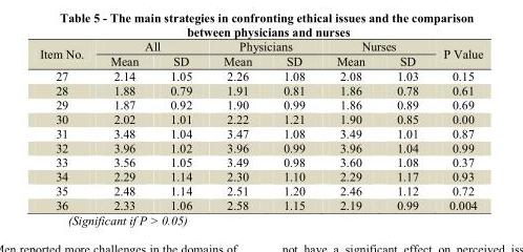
<table><thead><tr><td rowspan="2">Item No.</td><td colspan="2">All</td><td colspan="2">Physicians</td><td colspan="2">Nurses</td><td rowspan="2">P Value</td></tr><tr><td>Mean</td><td>SD</td><td>Mean</td><td>SD</td><td>Mean</td><td>SD</td></tr></thead><tbody><tr><td>27</td><td>2.14</td><td>1.05</td><td>2.26</td><td>1.08</td><td>2.08</td><td>1.03</td><td>0.15</td></tr><tr><td>28</td><td>1.88</td><td>0.79</td><td>1.91</td><td>0.81</td><td>1.86</td><td>0.78</td><td>0.61</td></tr><tr><td>29</td><td>1.87</td><td>0.92</td><td>1.90</td><td>0.99</td><td>1.86</td><td>0.89</td><td>0.69</td></tr><tr><td>30</td><td>2.02</td><td>1.01</td><td>2.22</td><td>1.21</td><td>1.90</td><td>0.85</td><td>0.00</td></tr><tr><td>31</td><td>3.48</td><td>1.04</td><td>3.47</td><td>1.08</td><td>3.49</td><td>1.01</td><td>0.87</td></tr><tr><td>32</td><td>3.96</td><td>1.02</td><td>3.96</td><td>0.99</td><td>3.96</td><td>1.04</td><td>0.99</td></tr><tr><td>33</td><td>3.56</td><td>1.05</td><td>3.49</td><td>0.98</td><td>3.60</td><td>1.08</td><td>0.37</td></tr><tr><td>34</td><td>2.29</td><td>1.14</td><td>2.30</td><td>1.10</td><td>2.29</td><td>1.17</td><td>0.93</td></tr><tr><td>35</td><td>2.48</td><td>1.14</td><td>2.51</td><td>1.20</td><td>2.46</td><td>1.12</td><td>0.72</td></tr><tr><td>36</td><td>2.33</td><td>1.06</td><td>2.58</td><td>1.15</td><td>2.19</td><td>0.99</td><td>0.004</td></tr></tbody></table>